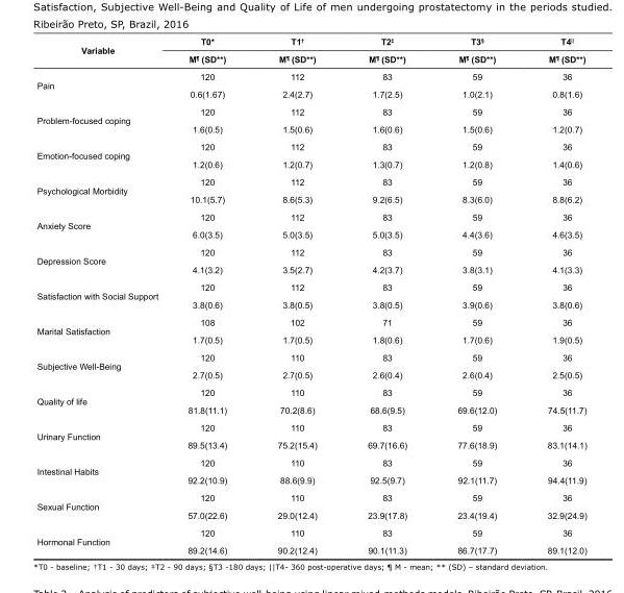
<table><tbody><tr><td rowspan="2">Variable</td><td>T0*</td><td>T1<sup>†</sup></td><td>T2<sup>‡</sup></td><td>T3<sup>§</sup></td><td>T4<sup>||</sup></td></tr><tr><td>M<sup>¶</sup> (SD**)</td><td>M<sup>¶</sup> (SD**)</td><td>M<sup>¶</sup> (SD**)</td><td>M<sup>¶</sup> (SD**)</td><td>M<sup>¶</sup> (SD**)</td></tr><tr><td rowspan="2">Pain</td><td>120</td><td>112</td><td>83</td><td>59</td><td>36</td></tr><tr><td>0.6(1.67)</td><td>2.4(2.7)</td><td>1.7(2.5)</td><td>1.0(2.1)</td><td>0.8(1.6)</td></tr><tr><td rowspan="2">Problem-focused coping</td><td>120</td><td>112</td><td>83</td><td>59</td><td>36</td></tr><tr><td>1.6(0.5)</td><td>1.5(0.6)</td><td>1.6(0.6)</td><td>1.5(0.6)</td><td>1.2(0.7)</td></tr><tr><td rowspan="2">Emotion-focused coping</td><td>120</td><td>112</td><td>83</td><td>59</td><td>36</td></tr><tr><td>1.2(0.6)</td><td>1.2(0.7)</td><td>1.3(0.7)</td><td>1.2(0.8)</td><td>1.4(0.6)</td></tr><tr><td rowspan="2">Psychological Morbidity</td><td>120</td><td>112</td><td>83</td><td>59</td><td>36</td></tr><tr><td>10.1(5.7)</td><td>8.6(5.3)</td><td>9.2(6.5)</td><td>8.3(6.0)</td><td>8.8(6.2)</td></tr><tr><td rowspan="2">Anxiety Score</td><td>120</td><td>112</td><td>83</td><td>59</td><td>36</td></tr><tr><td>6.0(3.5)</td><td>5.0(3.5)</td><td>5.0(3.5)</td><td>4.4(3.6)</td><td>4.6(3.5)</td></tr><tr><td rowspan="2">Depression Score</td><td>120</td><td>112</td><td>83</td><td>59</td><td>36</td></tr><tr><td>4.1(3.2)</td><td>3.5(2.7)</td><td>4.2(3.7)</td><td>3.8(3.1)</td><td>4.1(3.3)</td></tr><tr><td rowspan="2">Satisfaction with Social Support</td><td>120</td><td>112</td><td>83</td><td>59</td><td>36</td></tr><tr><td>3.8(0.6)</td><td>3.8(0.5)</td><td>3.8(0.5)</td><td>3.9(0.6)</td><td>3.8(0.6)</td></tr><tr><td rowspan="2">Marital Satisfaction</td><td>108</td><td>102</td><td>71</td><td>59</td><td>36</td></tr><tr><td>1.7(0.5)</td><td>1.7(0.5)</td><td>1.8(0.6)</td><td>1.7(0.6)</td><td>1.9(0.5)</td></tr><tr><td rowspan="2">Subjective Well-Being</td><td>120</td><td>110</td><td>83</td><td>59</td><td>36</td></tr><tr><td>2.7(0.5)</td><td>2.7(0.5)</td><td>2.6(0.4)</td><td>2.6(0.4)</td><td>2.5(0.5)</td></tr><tr><td rowspan="2">Quality of life</td><td>120</td><td>110</td><td>83</td><td>59</td><td>36</td></tr><tr><td>81.8(11.1)</td><td>70.2(8.6)</td><td>68.6(9.5)</td><td>69.6(12.0)</td><td>74.5(11.7)</td></tr><tr><td rowspan="2">Urinary Function</td><td>120</td><td>110</td><td>83</td><td>59</td><td>36</td></tr><tr><td>89.5(13.4)</td><td>75.2(15.4)</td><td>69.7(16.6)</td><td>77.6(18.9)</td><td>83.1(14.1)</td></tr><tr><td rowspan="2">Intestinal Habits</td><td>120</td><td>110</td><td>83</td><td>59</td><td>36</td></tr><tr><td>92.2(10.9)</td><td>88.6(9.9)</td><td>92.5(9.7)</td><td>92.1(11.7)</td><td>94.4(11.9)</td></tr><tr><td rowspan="2">Sexual Function</td><td>120</td><td>110</td><td>83</td><td>59</td><td>36</td></tr><tr><td>57.0(22.6)</td><td>29.0(12.4)</td><td>23.9(17.8)</td><td>23.4(19.4)</td><td>32.9(24.9)</td></tr><tr><td rowspan="2">Hormonal Function</td><td>120</td><td>110</td><td>83</td><td>59</td><td>36</td></tr><tr><td>89.2(14.6)</td><td>90.2(12.4)</td><td>90.1(11.3)</td><td>86.7(17.7)</td><td>89.1(12.0)</td></tr></tbody></table>